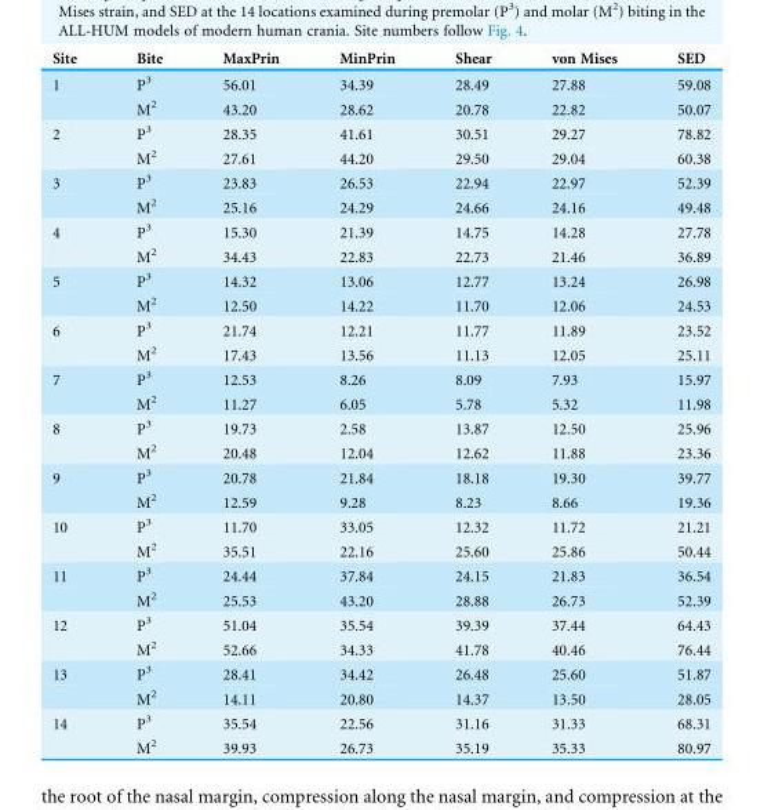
<table><thead><tr><td>Site</td><td>Bite</td><td>MaxPrin</td><td>MinPrin</td><td>Shear</td><td>von Mises</td><td>SED</td></tr></thead><tbody><tr><td rowspan="2">1</td><td>P<sup>3</sup></td><td>56.01</td><td>34.39</td><td>28.49</td><td>27.88</td><td>59.08</td></tr><tr><td>M<sup>2</sup></td><td>43.20</td><td>28.62</td><td>20.78</td><td>22.82</td><td>50.07</td></tr><tr><td rowspan="2">2</td><td>P<sup>3</sup></td><td>28.35</td><td>41.61</td><td>30.51</td><td>29.27</td><td>78.82</td></tr><tr><td>M<sup>2</sup></td><td>27.61</td><td>44.20</td><td>29.50</td><td>29.04</td><td>60.38</td></tr><tr><td rowspan="2">3</td><td>P<sup>3</sup></td><td>23.83</td><td>26.53</td><td>22.94</td><td>22.97</td><td>52.39</td></tr><tr><td>M<sup>2</sup></td><td>25.16</td><td>24.29</td><td>24.66</td><td>24.16</td><td>49.48</td></tr><tr><td rowspan="2">4</td><td>P<sup>3</sup></td><td>15.30</td><td>21.39</td><td>14.75</td><td>14.28</td><td>27.78</td></tr><tr><td>M<sup>2</sup></td><td>34.43</td><td>22.83</td><td>22.73</td><td>21.46</td><td>36.89</td></tr><tr><td rowspan="2">5</td><td>P<sup>3</sup></td><td>14.32</td><td>13.06</td><td>12.77</td><td>13.24</td><td>26.98</td></tr><tr><td>M<sup>2</sup></td><td>12.50</td><td>14.22</td><td>11.70</td><td>12.06</td><td>24.53</td></tr><tr><td rowspan="2">6</td><td>P<sup>3</sup></td><td>21.74</td><td>12.21</td><td>11.77</td><td>11.89</td><td>23.52</td></tr><tr><td>M<sup>2</sup></td><td>17.43</td><td>13.56</td><td>11.13</td><td>12.05</td><td>25.11</td></tr><tr><td rowspan="2">7</td><td>P<sup>3</sup></td><td>12.53</td><td>8.26</td><td>8.09</td><td>7.93</td><td>15.97</td></tr><tr><td>M<sup>2</sup></td><td>11.27</td><td>6.05</td><td>5.78</td><td>5.32</td><td>11.98</td></tr><tr><td rowspan="2">8</td><td>P<sup>3</sup></td><td>19.73</td><td>2.58</td><td>13.87</td><td>12.50</td><td>25.96</td></tr><tr><td>M<sup>2</sup></td><td>20.48</td><td>12.04</td><td>12.62</td><td>11.88</td><td>23.36</td></tr><tr><td rowspan="2">9</td><td>P<sup>3</sup></td><td>20.78</td><td>21.84</td><td>18.18</td><td>19.30</td><td>39.77</td></tr><tr><td>M<sup>2</sup></td><td>12.59</td><td>9.28</td><td>8.23</td><td>8.66</td><td>19.36</td></tr><tr><td rowspan="2">10</td><td>P<sup>3</sup></td><td>11.70</td><td>33.05</td><td>12.32</td><td>11.72</td><td>21.21</td></tr><tr><td>M<sup>2</sup></td><td>35.51</td><td>22.16</td><td>25.60</td><td>25.86</td><td>50.44</td></tr><tr><td rowspan="2">11</td><td>P<sup>3</sup></td><td>24.44</td><td>37.84</td><td>24.15</td><td>21.83</td><td>36.54</td></tr><tr><td>M<sup>2</sup></td><td>25.53</td><td>43.20</td><td>28.88</td><td>26.73</td><td>52.39</td></tr><tr><td rowspan="2">12</td><td>P<sup>3</sup></td><td>51.04</td><td>35.54</td><td>39.39</td><td>37.44</td><td>64.43</td></tr><tr><td>M<sup>2</sup></td><td>52.66</td><td>34.33</td><td>41.78</td><td>40.46</td><td>76.44</td></tr><tr><td rowspan="2">13</td><td>P<sup>3</sup></td><td>28.41</td><td>34.42</td><td>26.48</td><td>25.60</td><td>51.87</td></tr><tr><td>M<sup>2</sup></td><td>14.11</td><td>20.80</td><td>14.37</td><td>13.50</td><td>28.05</td></tr><tr><td rowspan="2">14</td><td>P<sup>3</sup></td><td>35.54</td><td>22.56</td><td>31.16</td><td>31.33</td><td>68.31</td></tr><tr><td>M<sup>2</sup></td><td>39.93</td><td>26.73</td><td>35.19</td><td>35.33</td><td>80.97</td></tr></tbody></table>